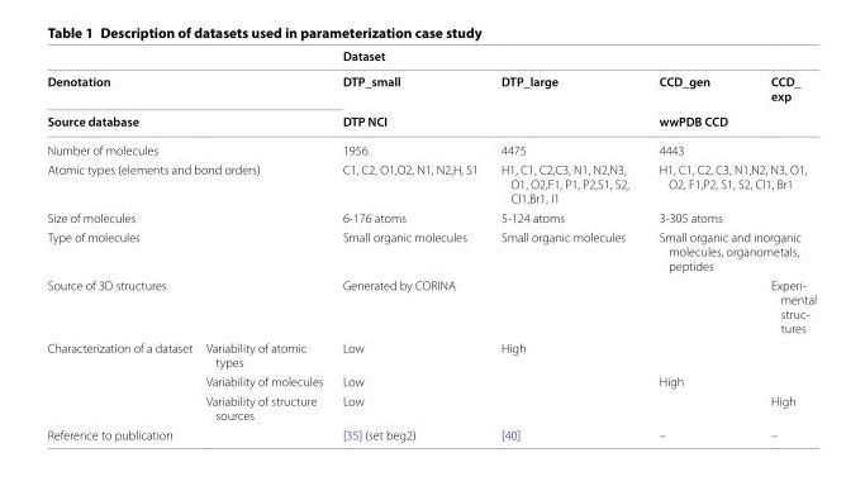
<table><thead><tr><td></td><td></td><td colspan="4">Dataset</td></tr><tr><td rowspan="2" colspan="2">Denotation Source database</td><td>DTP_small</td><td>DTP_large</td><td>CCD_gen</td><td>CCD_ exp</td></tr><tr><td colspan="2">DTP NCI</td><td colspan="2">wwPDB CCD</td></tr></thead><tbody><tr><td colspan="2">Number of molecules</td><td>1956</td><td>4475</td><td colspan="2">4443</td></tr><tr><td colspan="2">Atomic types (elements and bond orders)</td><td>C1, C2, O1,O2, N1, N2,H, S1</td><td>H1, C1, C2,C3, N1, N2,N3, O1, O2,F1, P1, P2,S1, S2, Cl1,Br1, I1</td><td colspan="2">H1, C1, C2, C3, N1,N2, N3, O1, O2, F1,P2, S1, S2, Cl1, Br1</td></tr><tr><td colspan="2">Size of molecules</td><td>6-176 atoms</td><td>5-124 atoms</td><td colspan="2">3-305 atoms</td></tr><tr><td colspan="2">Type of molecules</td><td>Small organic molecules</td><td>Small organic molecules</td><td colspan="2">Small organic and inorganic molecules, organometals, peptides</td></tr><tr><td colspan="2">Source of 3D structures</td><td colspan="3">Generated by CORINA</td><td>Experi- mental struc- tures</td></tr><tr><td rowspan="3">Characterization of a dataset</td><td>Variability of atomic types</td><td>Low</td><td colspan="3">High</td></tr><tr><td>Variability of molecules</td><td colspan="2">Low</td><td colspan="2">High</td></tr><tr><td>Variability of structure sources</td><td colspan="3">Low</td><td>High</td></tr><tr><td colspan="2">Reference to publication</td><td>[35] (set beg2)</td><td>[40]</td><td>–</td><td>–</td></tr></tbody></table>